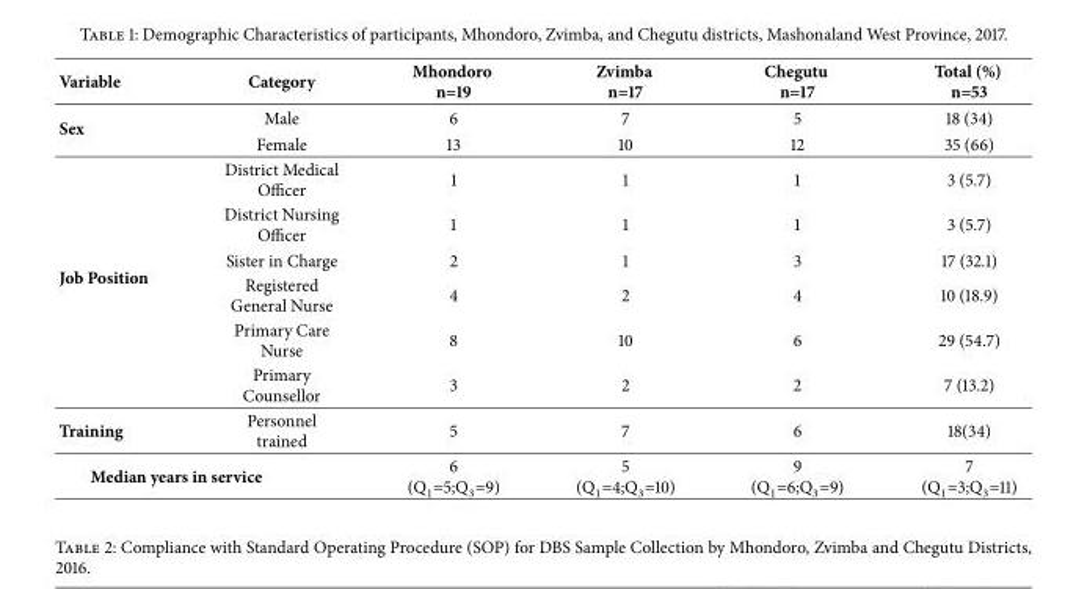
<table><thead><tr><td>Variable</td><td>Category</td><td>Mhondoro n=19</td><td>Zvimba n=17</td><td>Chegutu n=17</td><td>Total (%) n=53</td></tr></thead><tbody><tr><td rowspan="2">Sex</td><td>Male</td><td>6</td><td>7</td><td>5</td><td>18 (34)</td></tr><tr><td>Female</td><td>13</td><td>10</td><td>12</td><td>35 (66)</td></tr><tr><td rowspan="6">Job Position</td><td>District Medical Officer</td><td>1</td><td>1</td><td>1</td><td>3 (5.7)</td></tr><tr><td>District Nursing Officer</td><td>1</td><td>1</td><td>1</td><td>3 (5.7)</td></tr><tr><td>Sister in Charge</td><td>2</td><td>1</td><td>3</td><td>17 (32.1)</td></tr><tr><td>Registered General Nurse</td><td>4</td><td>2</td><td>4</td><td>10 (18.9)</td></tr><tr><td>Primary Care Nurse</td><td>8</td><td>10</td><td>6</td><td>29 (54.7)</td></tr><tr><td>Primary Counsellor</td><td>3</td><td>2</td><td>2</td><td>7 (13.2)</td></tr><tr><td>Training</td><td>Personnel trained</td><td>5</td><td>7</td><td>6</td><td>18(34)</td></tr><tr><td colspan="2">Median years in service</td><td>6 (Q<sub>1</sub>=5;Q<sub>3</sub>=9)</td><td>5 (Q<sub>1</sub>=4;Q<sub>3</sub>=10)</td><td>9 (Q<sub>1</sub>=6;Q<sub>3</sub>=9)</td><td>7 (Q<sub>1</sub>=3;Q<sub>3</sub>=11)</td></tr></tbody></table>